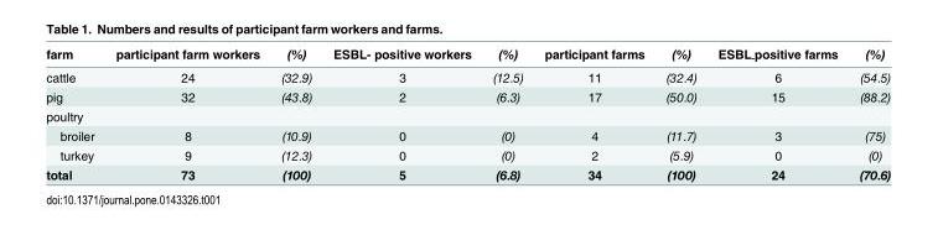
<table><thead><tr><td>farm</td><td>participant farm workers</td><td>(%)</td><td>ESBL- positive workers</td><td>(%)</td><td>participant farms</td><td>(%)</td><td>ESBL<sub>-</sub>positive farms</td><td>(%)</td></tr></thead><tbody><tr><td>cattle</td><td>24</td><td>(32.9)</td><td>3</td><td>(12.5)</td><td>11</td><td>(32.4)</td><td>6</td><td>(54.5)</td></tr><tr><td>pig</td><td>32</td><td>(43.8)</td><td>2</td><td>(6.3)</td><td>17</td><td>(50.0)</td><td>15</td><td>(88.2)</td></tr><tr><td colspan="9">poultry</td></tr><tr><td>broiler</td><td>8</td><td>(10.9)</td><td>0</td><td>(0)</td><td>4</td><td>(11.7)</td><td>3</td><td>(75)</td></tr><tr><td>turkey</td><td>9</td><td>(12.3)</td><td>0</td><td>(0)</td><td>2</td><td>(5.9)</td><td>0</td><td>(0)</td></tr><tr><td>total</td><td>73</td><td>(100)</td><td>5</td><td>(6.8)</td><td>34</td><td>(100)</td><td>24</td><td>(70.6)</td></tr></tbody></table>